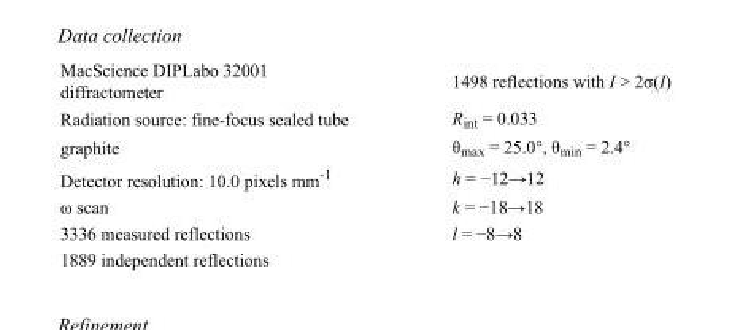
<table><tbody><tr><td>MacScience DIPLabo 32001 diffractometer</td><td>1498 reflections with I &gt; 2σ(I)</td></tr><tr><td>Radiation source: fine-focus sealed tube</td><td>R<sub>int</sub> = 0.033</td></tr><tr><td>graphite</td><td>θ<sub>max</sub> = 25.0°, θ<sub>min</sub> = 2.4°</td></tr><tr><td>Detector resolution: 10.0 pixels mm<sup>-1</sup></td><td>h = −12→12</td></tr><tr><td>ω scan</td><td>k = −18→18</td></tr><tr><td>3336 measured reflections</td><td>l = −8→8</td></tr><tr><td>1889 independent reflections</td><td></td></tr></tbody></table>